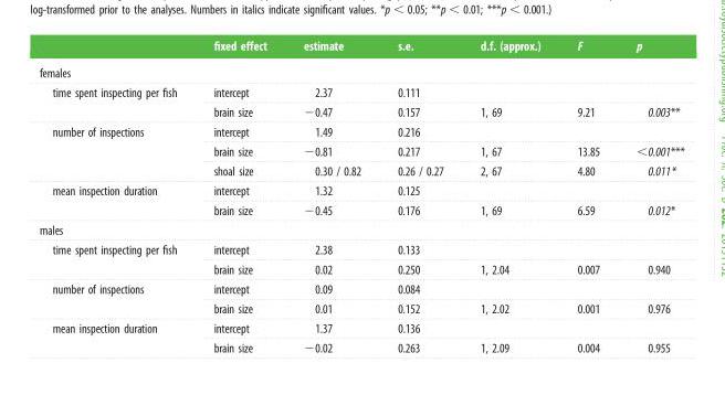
<table><thead><tr><td></td><td>fixed effect</td><td>estimate</td><td>s.e.</td><td>d.f. (approx.)</td><td>F</td><td>p</td></tr></thead><tbody><tr><td colspan="7">females</td></tr><tr><td rowspan="2">time spent inspecting per fish</td><td>intercept</td><td>2.37</td><td>0.111</td><td></td><td></td><td></td></tr><tr><td>brain size</td><td>−0.47</td><td>0.157</td><td>1, 69</td><td>9.21</td><td>0.003**</td></tr><tr><td rowspan="3">number of inspections</td><td>intercept</td><td>1.49</td><td>0.216</td><td></td><td></td><td></td></tr><tr><td>brain size</td><td>−0.81</td><td>0.217</td><td>1, 67</td><td>13.85</td><td>&lt;0.001***</td></tr><tr><td>shoal size</td><td>0.30 / 0.82</td><td>0.26 / 0.27</td><td>2, 67</td><td>4.80</td><td>0.011*</td></tr><tr><td rowspan="2">mean inspection duration</td><td>intercept</td><td>1.32</td><td>0.125</td><td></td><td></td><td></td></tr><tr><td>brain size</td><td>−0.45</td><td>0.176</td><td>1, 69</td><td>6.59</td><td>0.012*</td></tr><tr><td colspan="7">males</td></tr><tr><td rowspan="2">time spent inspecting per fish</td><td>intercept</td><td>2.38</td><td>0.133</td><td></td><td></td><td></td></tr><tr><td>brain size</td><td>0.02</td><td>0.250</td><td>1, 2.04</td><td>0.007</td><td>0.940</td></tr><tr><td rowspan="2">number of inspections</td><td>intercept</td><td>0.09</td><td>0.084</td><td></td><td></td><td></td></tr><tr><td>brain size</td><td>0.01</td><td>0.152</td><td>1, 2.02</td><td>0.001</td><td>0.976</td></tr><tr><td rowspan="2">mean inspection duration</td><td>intercept</td><td>1.37</td><td>0.136</td><td></td><td></td><td></td></tr><tr><td>brain size</td><td>−0.02</td><td>0.263</td><td>1, 2.09</td><td>0.004</td><td>0.955</td></tr></tbody></table>